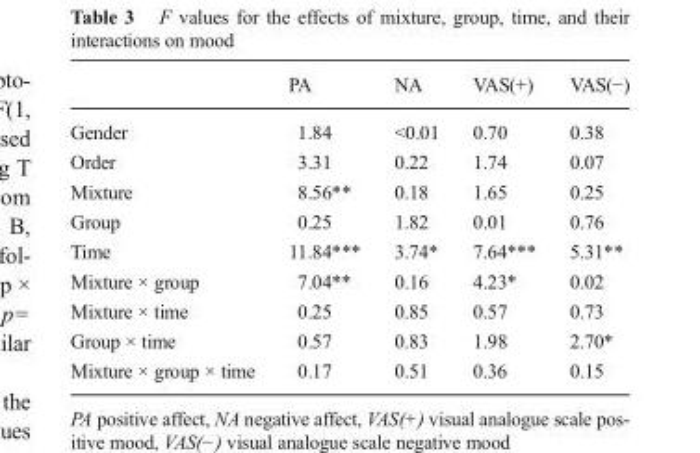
<table><thead><tr><td></td><td>PA</td><td>NA</td><td>VAS(+)</td><td>VAS(−)</td></tr></thead><tbody><tr><td>Gender</td><td>1.84</td><td>&lt;0.01</td><td>0.70</td><td>0.38</td></tr><tr><td>Order</td><td>3.31</td><td>0.22</td><td>1.74</td><td>0.07</td></tr><tr><td>Mixture</td><td>8.56**</td><td>0.18</td><td>1.65</td><td>0.25</td></tr><tr><td>Group</td><td>0.25</td><td>1.82</td><td>0.01</td><td>0.76</td></tr><tr><td>Time</td><td>11.84***</td><td>3.74*</td><td>7.64***</td><td>5.31**</td></tr><tr><td>Mixture × group</td><td>7.04**</td><td>0.16</td><td>4.23*</td><td>0.02</td></tr><tr><td>Mixture × time</td><td>0.25</td><td>0.85</td><td>0.57</td><td>0.73</td></tr><tr><td>Group × time</td><td>0.57</td><td>0.83</td><td>1.98</td><td>2.70*</td></tr><tr><td>Mixture × group × time</td><td>0.17</td><td>0.51</td><td>0.36</td><td>0.15</td></tr></tbody></table>